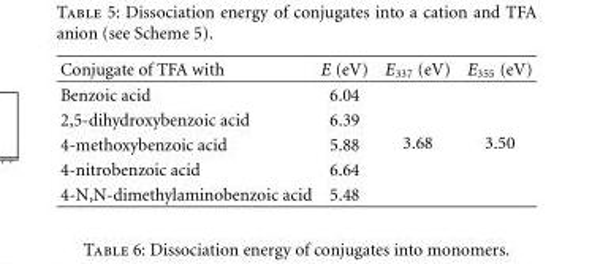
<table><thead><tr><td>Conjugate of TFA with</td><td>E (eV)</td><td>E<sub>337</sub> (eV)</td><td>E<sub>355</sub> (eV)</td></tr></thead><tbody><tr><td>Benzoic acid</td><td>6.04</td><td rowspan="5">3.68</td><td rowspan="5">3.50</td></tr><tr><td>2,5-dihydroxybenzoic acid</td><td>6.39</td></tr><tr><td>4-methoxybenzoic acid</td><td>5.88</td></tr><tr><td>4-nitrobenzoic acid</td><td>6.64</td></tr><tr><td>4-N,N-dimethylaminobenzoic acid</td><td>5.48</td></tr></tbody></table>